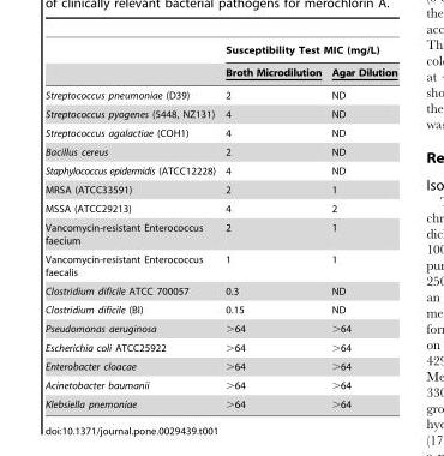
<table><thead><tr><td rowspan="2"></td><td colspan="2">Susceptibility Test MIC (mg/L)</td></tr><tr><td>Broth Microdilution</td><td>Agar Dilution</td></tr></thead><tbody><tr><td>Streptococcus pneumoniae (D39)</td><td>2</td><td>ND</td></tr><tr><td>Streptococcus pyogenes (5448, NZ131)</td><td>4</td><td>ND</td></tr><tr><td>Streptococcus agalactiae (COH1)</td><td>4</td><td>ND</td></tr><tr><td>Bacillus cereus</td><td>2</td><td>ND</td></tr><tr><td>Staphylococcus epidermidis (ATCC12228)</td><td>4</td><td>ND</td></tr><tr><td>MRSA (ATCC33591)</td><td>2</td><td>1</td></tr><tr><td>MSSA (ATCC29213)</td><td>4</td><td>2</td></tr><tr><td>Vancomycin-resistant Enterococcus faecium</td><td>2</td><td>1</td></tr><tr><td>Vancomycin-resistant Enterococcus faecalis</td><td>1</td><td>1</td></tr><tr><td>Clostridium dificile ATCC 700057</td><td>0.3</td><td>ND</td></tr><tr><td>Clostridium dificile (BI)</td><td>0.15</td><td>ND</td></tr><tr><td>Pseudomonas aeruginosa</td><td>&gt;64</td><td>&gt;64</td></tr><tr><td>Escherichia coli ATCC25922</td><td>&gt;64</td><td>&gt;64</td></tr><tr><td>Enterobacter cloacae</td><td>&gt;64</td><td>&gt;64</td></tr><tr><td>Acinetobacter baumanii</td><td>&gt;64</td><td>&gt;64</td></tr><tr><td>Klebsiella pnemoniae</td><td>&gt;64</td><td>&gt;64</td></tr></tbody></table>